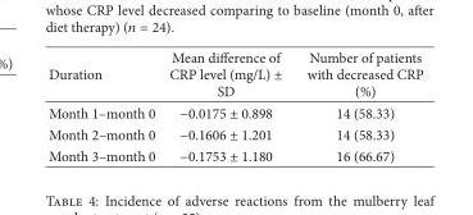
<table><thead><tr><td>Duration</td><td>Mean difference of CRP level (mg/L) ± SD</td><td>Number of patients with decreased CRP (%)</td></tr></thead><tbody><tr><td>Month 1–month 0</td><td>−0.0175 ± 0.898</td><td>14 (58.33)</td></tr><tr><td>Month 2–month 0</td><td>−0.1606 ± 1.201</td><td>14 (58.33)</td></tr><tr><td>Month 3–month 0</td><td>−0.1753 ± 1.180</td><td>16 (66.67)</td></tr></tbody></table>